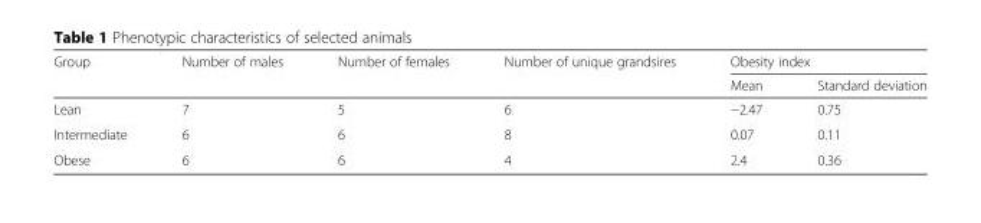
<table><thead><tr><td rowspan="2">Group</td><td rowspan="2">Number of males</td><td rowspan="2">Number of females</td><td rowspan="2">Number of unique grandsires</td><td colspan="2">Obesity index</td></tr><tr><td>Mean</td><td>Standard deviation</td></tr></thead><tbody><tr><td>Lean</td><td>7</td><td>5</td><td>6</td><td>−2.47</td><td>0.75</td></tr><tr><td>Intermediate</td><td>6</td><td>6</td><td>8</td><td>0.07</td><td>0.11</td></tr><tr><td>Obese</td><td>6</td><td>6</td><td>4</td><td>2.4</td><td>0.36</td></tr></tbody></table>